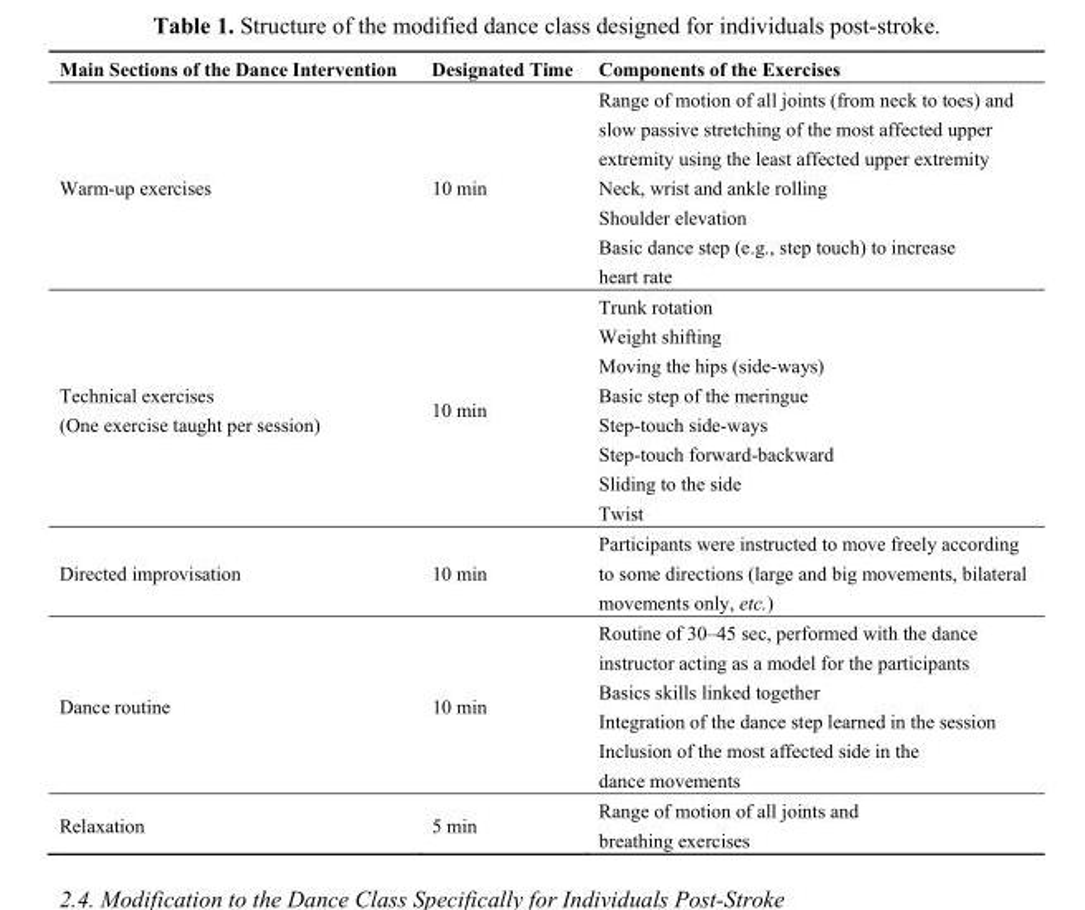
<table><thead><tr><td>Main Sections of the Dance Intervention</td><td>Designated Time</td><td>Components of the Exercises</td></tr></thead><tbody><tr><td rowspan="4">Warm-up exercises</td><td rowspan="4">10 min</td><td>Range of motion of all joints (from neck to toes) and slow passive stretching of the most affected upper extremity using the least affected upper extremity</td></tr><tr><td>Neck, wrist and ankle rolling</td></tr><tr><td>Shoulder elevation</td></tr><tr><td>Basic dance step (e.g., step touch) to increase heart rate</td></tr><tr><td rowspan="8">Technical exercises (One exercise taught per session)</td><td rowspan="8">10 min</td><td>Trunk rotation</td></tr><tr><td>Weight shifting</td></tr><tr><td>Moving the hips (side-ways)</td></tr><tr><td>Basic step of the meringue</td></tr><tr><td>Step-touch side-ways</td></tr><tr><td>Step-touch forward-backward</td></tr><tr><td>Sliding to the side</td></tr><tr><td>Twist</td></tr><tr><td>Directed improvisation</td><td>10 min</td><td>Participants were instructed to move freely according to some directions (large and big movements, bilateral movements only, etc.)</td></tr><tr><td rowspan="4">Dance routine</td><td rowspan="4">10 min</td><td>Routine of 30–45 sec, performed with the dance instructor acting as a model for the participants</td></tr><tr><td>Basics skills linked together</td></tr><tr><td>Integration of the dance step learned in the session</td></tr><tr><td>Inclusion of the most affected side in the dance movements</td></tr><tr><td>Relaxation</td><td>5 min</td><td>Range of motion of all joints and breathing exercises</td></tr></tbody></table>